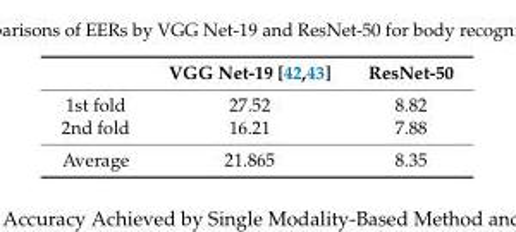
<table><thead><tr><td></td><td>VGG Net-19 [42,43]</td><td>ResNet-50</td></tr></thead><tbody><tr><td>1st fold</td><td>27.52</td><td>8.82</td></tr><tr><td>2nd fold</td><td>16.21</td><td>7.88</td></tr><tr><td>Average</td><td>21.865</td><td>8.35</td></tr></tbody></table>